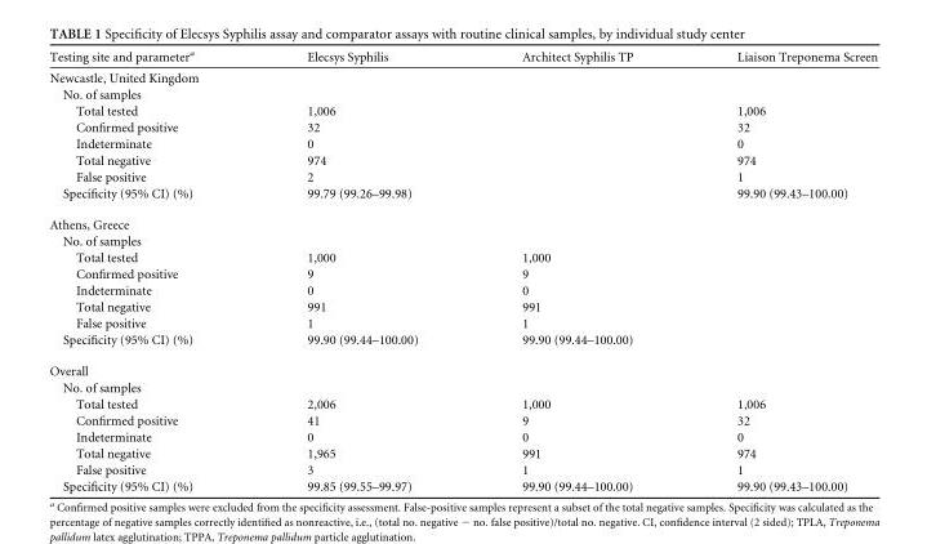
<table><thead><tr><td>Testing site and parameter<sup>a</sup></td><td>Elecsys Syphilis</td><td>Architect Syphilis TP</td><td>Liaison Treponema Screen</td></tr></thead><tbody><tr><td colspan="4">Newcastle, United Kingdom</td></tr><tr><td colspan="4">No. of samples</td></tr><tr><td>Total tested</td><td>1,006</td><td></td><td>1,006</td></tr><tr><td>Confirmed positive</td><td>32</td><td></td><td>32</td></tr><tr><td>Indeterminate</td><td>0</td><td></td><td>0</td></tr><tr><td>Total negative</td><td>974</td><td></td><td>974</td></tr><tr><td>False positive</td><td>2</td><td></td><td>1</td></tr><tr><td>Specificity (95% CI) (%)</td><td>99.79 (99.26–99.98)</td><td></td><td>99.90 (99.43–100.00)</td></tr><tr><td colspan="4">Athens, Greece</td></tr><tr><td colspan="4">No. of samples</td></tr><tr><td>Total tested</td><td>1,000</td><td>1,000</td><td></td></tr><tr><td>Confirmed positive</td><td>9</td><td>9</td><td></td></tr><tr><td>Indeterminate</td><td>0</td><td>0</td><td></td></tr><tr><td>Total negative</td><td>991</td><td>991</td><td></td></tr><tr><td>False positive</td><td>1</td><td>1</td><td></td></tr><tr><td>Specificity (95% CI) (%)</td><td>99.90 (99.44–100.00)</td><td>99.90 (99.44–100.00)</td><td></td></tr><tr><td colspan="4">Overall</td></tr><tr><td colspan="4">No. of samples</td></tr><tr><td>Total tested</td><td>2,006</td><td>1,000</td><td>1,006</td></tr><tr><td>Confirmed positive</td><td>41</td><td>9</td><td>32</td></tr><tr><td>Indeterminate</td><td>0</td><td>0</td><td>0</td></tr><tr><td>Total negative</td><td>1,965</td><td>991</td><td>974</td></tr><tr><td>False positive</td><td>3</td><td>1</td><td>1</td></tr><tr><td>Specificity (95% CI) (%)</td><td>99.85 (99.55–99.97)</td><td>99.90 (99.44–100.00)</td><td>99.90 (99.43–100.00)</td></tr></tbody></table>